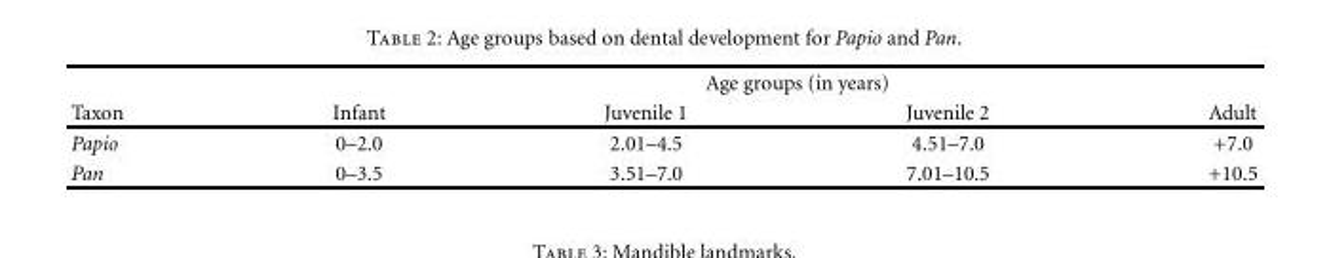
<table><thead><tr><td rowspan="2">Taxon</td><td colspan="4">Age groups (in years)</td></tr><tr><td>Infant</td><td>Juvenile 1</td><td>Juvenile 2</td><td>Adult</td></tr></thead><tbody><tr><td>Papio</td><td>0–2.0</td><td>2.01–4.5</td><td>4.51–7.0</td><td>+7.0</td></tr><tr><td>Pan</td><td>0–3.5</td><td>3.51–7.0</td><td>7.01–10.5</td><td>+10.5</td></tr></tbody></table>